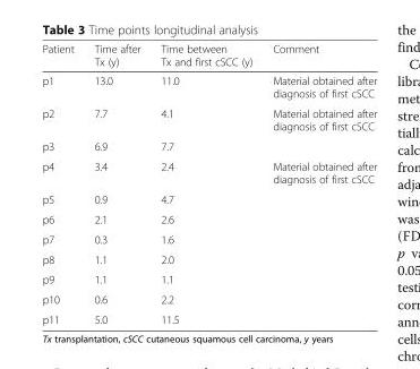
<table><thead><tr><td>Patient</td><td>Time after Tx (y)</td><td>Time between Tx and first cSCC (y)</td><td>Comment</td></tr></thead><tbody><tr><td>p1</td><td>13.0</td><td>11.0</td><td>Material obtained after diagnosis of first cSCC</td></tr><tr><td>p2</td><td>7.7</td><td>4.1</td><td>Material obtained after diagnosis of first cSCC</td></tr><tr><td>p3</td><td>6.9</td><td>7.7</td><td></td></tr><tr><td>p4</td><td>3.4</td><td>2.4</td><td>Material obtained after diagnosis of first cSCC</td></tr><tr><td>p5</td><td>0.9</td><td>4.7</td><td></td></tr><tr><td>p6</td><td>2.1</td><td>2.6</td><td></td></tr><tr><td>p7</td><td>0.3</td><td>1.6</td><td></td></tr><tr><td>p8</td><td>1.1</td><td>2.0</td><td></td></tr><tr><td>p9</td><td>1.1</td><td>1.1</td><td></td></tr><tr><td>p10</td><td>0.6</td><td>2.2</td><td></td></tr><tr><td>p11</td><td>5.0</td><td>11.5</td><td></td></tr></tbody></table>